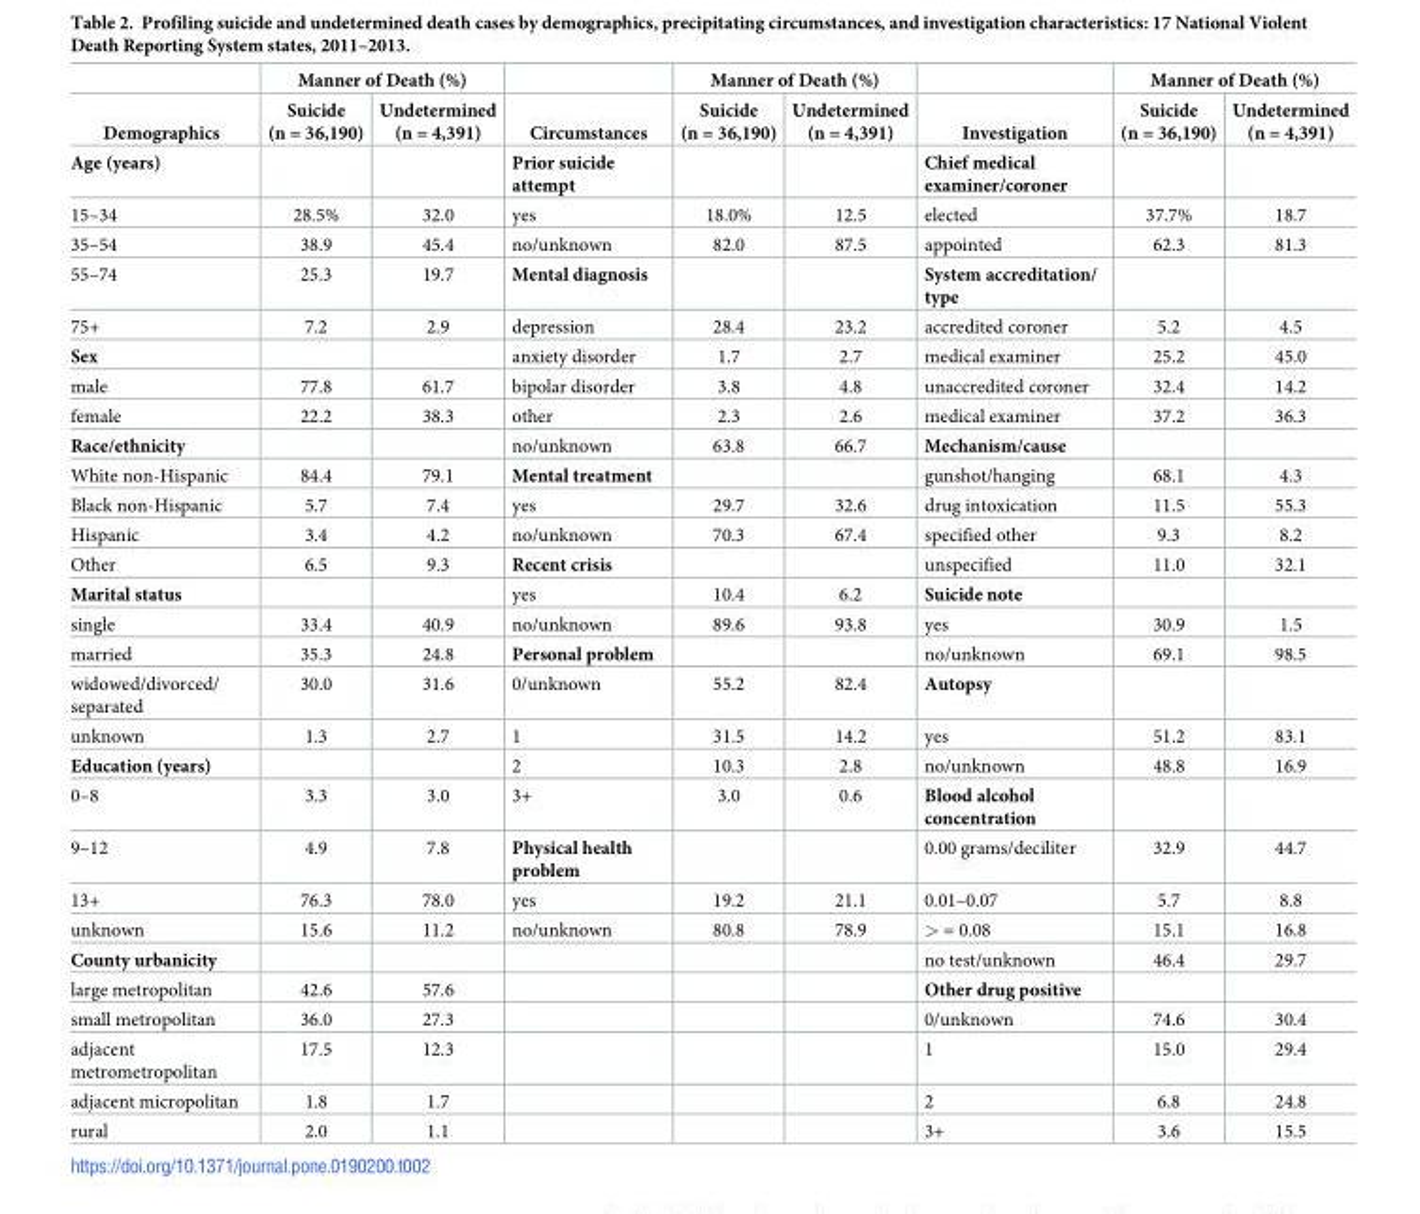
<table><thead><tr><td rowspan="2">Demographics</td><td colspan="2">Manner of Death (%)</td><td rowspan="2">Circumstances</td><td colspan="2">Manner of Death (%)</td><td rowspan="2">Investigation</td><td colspan="2">Manner of Death (%)</td></tr><tr><td>Suicide (n = 36,190)</td><td>Undetermined (n = 4,391)</td><td>Suicide (n = 36,190)</td><td>Undetermined (n = 4,391)</td><td>Suicide (n = 36,190)</td><td>Undetermined (n = 4,391)</td></tr></thead><tbody><tr><td>Age (years)</td><td></td><td></td><td>Prior suicide attempt</td><td></td><td></td><td>Chief medical examiner/coroner</td><td></td><td></td></tr><tr><td>15–34</td><td>28.5%</td><td>32.0</td><td>yes</td><td>18.0%</td><td>12.5</td><td>elected</td><td>37.7%</td><td>18.7</td></tr><tr><td>35–54</td><td>38.9</td><td>45.4</td><td>no/unknown</td><td>82.0</td><td>87.5</td><td>appointed</td><td>62.3</td><td>81.3</td></tr><tr><td>55–74</td><td>25.3</td><td>19.7</td><td>Mental diagnosis</td><td></td><td></td><td>System accreditation/ type</td><td></td><td></td></tr><tr><td>75+</td><td>7.2</td><td>2.9</td><td>depression</td><td>28.4</td><td>23.2</td><td>accredited coroner</td><td>5.2</td><td>4.5</td></tr><tr><td>Sex</td><td></td><td></td><td>anxiety disorder</td><td>1.7</td><td>2.7</td><td>medical examiner</td><td>25.2</td><td>45.0</td></tr><tr><td>male</td><td>77.8</td><td>61.7</td><td>bipolar disorder</td><td>3.8</td><td>4.8</td><td>unaccredited coroner</td><td>32.4</td><td>14.2</td></tr><tr><td>female</td><td>22.2</td><td>38.3</td><td>other</td><td>2.3</td><td>2.6</td><td>medical examiner</td><td>37.2</td><td>36.3</td></tr><tr><td>Race/ethnicity</td><td></td><td></td><td>no/unknown</td><td>63.8</td><td>66.7</td><td>Mechanism/cause</td><td></td><td></td></tr><tr><td>White non-Hispanic</td><td>84.4</td><td>79.1</td><td>Mental treatment</td><td></td><td></td><td>gunshot/hanging</td><td>68.1</td><td>4.3</td></tr><tr><td>Black non-Hispanic</td><td>5.7</td><td>7.4</td><td>yes</td><td>29.7</td><td>32.6</td><td>drug intoxication</td><td>11.5</td><td>55.3</td></tr><tr><td>Hispanic</td><td>3.4</td><td>4.2</td><td>no/unknown</td><td>70.3</td><td>67.4</td><td>specified other</td><td>9.3</td><td>8.2</td></tr><tr><td>Other</td><td>6.5</td><td>9.3</td><td>Recent crisis</td><td></td><td></td><td>unspecified</td><td>11.0</td><td>32.1</td></tr><tr><td>Marital status</td><td></td><td></td><td>yes</td><td>10.4</td><td>6.2</td><td>Suicide note</td><td></td><td></td></tr><tr><td>single</td><td>33.4</td><td>40.9</td><td>no/unknown</td><td>89.6</td><td>93.8</td><td>yes</td><td>30.9</td><td>1.5</td></tr><tr><td>married</td><td>35.3</td><td>24.8</td><td>Personal problem</td><td></td><td></td><td>no/unknown</td><td>69.1</td><td>98.5</td></tr><tr><td>widowed/divorced/ separated</td><td>30.0</td><td>31.6</td><td>0/unknown</td><td>55.2</td><td>82.4</td><td>Autopsy</td><td></td><td></td></tr><tr><td>unknown</td><td>1.3</td><td>2.7</td><td>1</td><td>31.5</td><td>14.2</td><td>yes</td><td>51.2</td><td>83.1</td></tr><tr><td>Education (years)</td><td></td><td></td><td>2</td><td>10.3</td><td>2.8</td><td>no/unknown</td><td>48.8</td><td>16.9</td></tr><tr><td>0–8</td><td>3.3</td><td>3.0</td><td>3+</td><td>3.0</td><td>0.6</td><td>Blood alcohol concentration</td><td></td><td></td></tr><tr><td>9–12</td><td>4.9</td><td>7.8</td><td>Physical health problem</td><td></td><td></td><td>0.00 grams/deciliter</td><td>32.9</td><td>44.7</td></tr><tr><td>13+</td><td>76.3</td><td>78.0</td><td>yes</td><td>19.2</td><td>21.1</td><td>0.01–0.07</td><td>5.7</td><td>8.8</td></tr><tr><td>unknown</td><td>15.6</td><td>11.2</td><td>no/unknown</td><td>80.8</td><td>78.9</td><td>&gt; = 0.08</td><td>15.1</td><td>16.8</td></tr><tr><td>County urbanicity</td><td></td><td></td><td></td><td></td><td></td><td>no test/unknown</td><td>46.4</td><td>29.7</td></tr><tr><td>large metropolitan</td><td>42.6</td><td>57.6</td><td></td><td></td><td></td><td>Other drug positive</td><td></td><td></td></tr><tr><td>small metropolitan</td><td>36.0</td><td>27.3</td><td></td><td></td><td></td><td>0/unknown</td><td>74.6</td><td>30.4</td></tr><tr><td>adjacent metrometropolitan</td><td>17.5</td><td>12.3</td><td></td><td></td><td></td><td>1</td><td>15.0</td><td>29.4</td></tr><tr><td>adjacent micropolitan</td><td>1.8</td><td>1.7</td><td></td><td></td><td></td><td>2</td><td>6.8</td><td>24.8</td></tr><tr><td>rural</td><td>2.0</td><td>1.1</td><td></td><td></td><td></td><td>3+</td><td>3.6</td><td>15.5</td></tr></tbody></table>